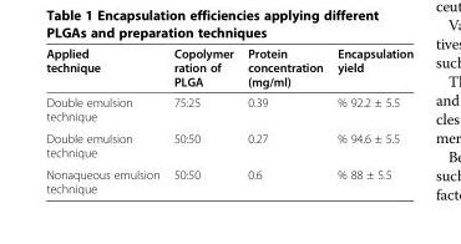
<table><thead><tr><td>Applied technique</td><td>Copolymer ration of PLGA</td><td>Protein concentration (mg/ml)</td><td>Encapsulation yield</td></tr></thead><tbody><tr><td>Double emulsion technique</td><td>75:25</td><td>0.39</td><td>% 92.2 ± 5.5</td></tr><tr><td>Double emulsion technique</td><td>50:50</td><td>0.27</td><td>% 94.6 ± 5.5</td></tr><tr><td>Nonaqueous emulsion technique</td><td>50:50</td><td>0.6</td><td>% 88 ± 5.5</td></tr></tbody></table>